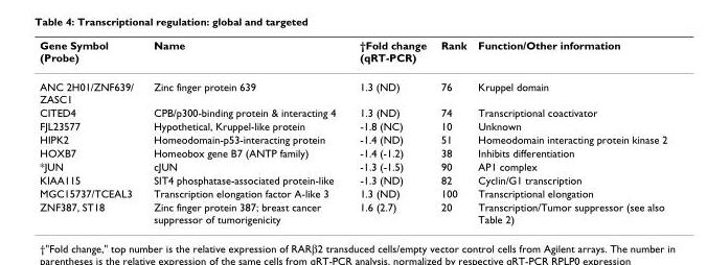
<table><thead><tr><td>Gene Symbol (Probe)</td><td>Name</td><td>†Fold change (qRT-PCR)</td><td>Rank</td><td>Function/Other information</td></tr></thead><tbody><tr><td>ANC 2H01/ZNF639/ ZASC1</td><td>Zinc finger protein 639</td><td>1.3 (ND)</td><td>76</td><td>Kruppel domain</td></tr><tr><td>CITED4</td><td>CPB/p300-binding protein &amp; interacting 4</td><td>1.3 (ND)</td><td>74</td><td>Transcriptional coactivator</td></tr><tr><td>FJL23577</td><td>Hypothetical, Kruppel-like protein</td><td>-1.8 (NC)</td><td>10</td><td>Unknown</td></tr><tr><td>HIPK2</td><td>Homeodomain-p53-interacting protein</td><td>-1.4 (ND)</td><td>51</td><td>Homeodomain interacting protein kinase 2</td></tr><tr><td>HOXB7</td><td>Homeobox gene B7 (ANTP family)</td><td>-1.4 (-1.2)</td><td>38</td><td>Inhibits differentiation</td></tr><tr><td>*JUN</td><td>cJUN</td><td>-1.3 (-1.5)</td><td>90</td><td>AP1 complex</td></tr><tr><td>KIAA115</td><td>SIT4 phosphatase-associated protein-like</td><td>-1.3 (ND)</td><td>82</td><td>Cyclin/G1 transcription</td></tr><tr><td>MGC15737/TCEAL3</td><td>Transcription elongation factor A-like 3</td><td>1.3 (ND)</td><td>100</td><td>Transcriptional elongation</td></tr><tr><td>ZNF387, ST18</td><td>Zinc finger protein 387; breast cancer suppressor of tumorigenicity</td><td>1.6 (2.7)</td><td>20</td><td>Transcription/Tumor suppressor (see also Table 2)</td></tr></tbody></table>